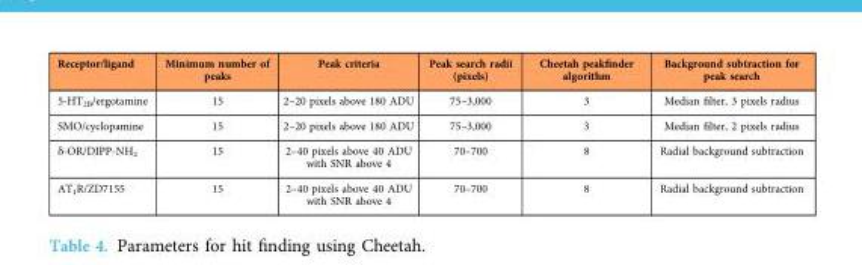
<table><thead><tr><td>Receptor/ligand</td><td>Minimum number of peaks</td><td>Peak criteria</td><td>Peak search radii (pixels)</td><td>Cheetah peakfinder algorithm</td><td>Background subtraction for peak search</td></tr></thead><tbody><tr><td>5-HT<sub>2B</sub>/ergotamine</td><td>15</td><td>2–20 pixels above 180 ADU</td><td>75–3,000</td><td>3</td><td>Median filter, 3 pixels radius</td></tr><tr><td>SMO/cyclopamine</td><td>15</td><td>2–20 pixels above 180 ADU</td><td>75–3,000</td><td>3</td><td>Median filter, 2 pixels radius</td></tr><tr><td>δ-OR/DIPP-NH<sub>2</sub></td><td>15</td><td>2–40 pixels above 40 ADU with SNR above 4</td><td>70–700</td><td>8</td><td>Radial background subtraction</td></tr><tr><td>AT<sub>1</sub>R/ZD7155</td><td>15</td><td>2–40 pixels above 40 ADU with SNR above 4</td><td>70–700</td><td>8</td><td>Radial background subtraction</td></tr></tbody></table>